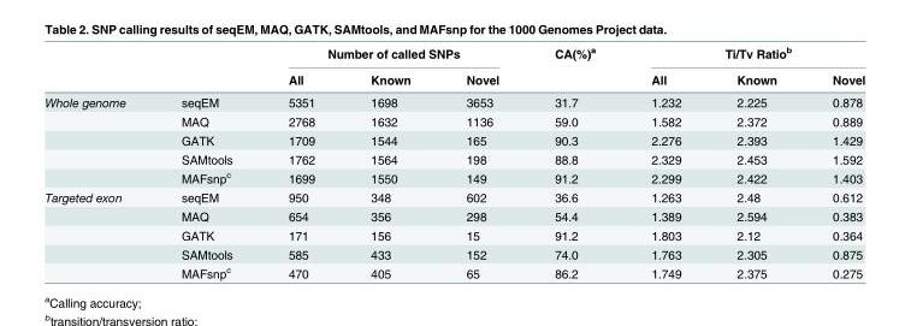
<table><thead><tr><td rowspan="2"></td><td rowspan="2"></td><td colspan="3">Number of called SNPs</td><td rowspan="2">CA(%)<sup>a</sup></td><td colspan="3">Ti/Tv Ratio<sup>b</sup></td></tr><tr><td>All</td><td>Known</td><td>Novel</td><td>All</td><td>Known</td><td>Novel</td></tr></thead><tbody><tr><td rowspan="5">Whole genome</td><td>seqEM</td><td>5351</td><td>1698</td><td>3653</td><td>31.7</td><td>1.232</td><td>2.225</td><td>0.878</td></tr><tr><td>MAQ</td><td>2768</td><td>1632</td><td>1136</td><td>59.0</td><td>1.582</td><td>2.372</td><td>0.889</td></tr><tr><td>GATK</td><td>1709</td><td>1544</td><td>165</td><td>90.3</td><td>2.276</td><td>2.393</td><td>1.429</td></tr><tr><td>SAMtools</td><td>1762</td><td>1564</td><td>198</td><td>88.8</td><td>2.329</td><td>2.453</td><td>1.592</td></tr><tr><td>MAFsnp<sup>c</sup></td><td>1699</td><td>1550</td><td>149</td><td>91.2</td><td>2.299</td><td>2.422</td><td>1.403</td></tr><tr><td rowspan="5">Targeted exon</td><td>seqEM</td><td>950</td><td>348</td><td>602</td><td>36.6</td><td>1.263</td><td>2.48</td><td>0.612</td></tr><tr><td>MAQ</td><td>654</td><td>356</td><td>298</td><td>54.4</td><td>1.389</td><td>2.594</td><td>0.383</td></tr><tr><td>GATK</td><td>171</td><td>156</td><td>15</td><td>91.2</td><td>1.803</td><td>2.12</td><td>0.364</td></tr><tr><td>SAMtools</td><td>585</td><td>433</td><td>152</td><td>74.0</td><td>1.763</td><td>2.305</td><td>0.875</td></tr><tr><td>MAFsnp<sup>c</sup></td><td>470</td><td>405</td><td>65</td><td>86.2</td><td>1.749</td><td>2.375</td><td>0.275</td></tr></tbody></table>